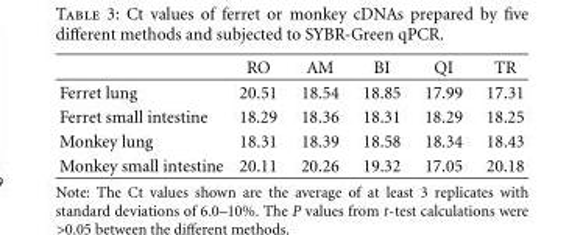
<table><thead><tr><td></td><td>RO</td><td>AM</td><td>BI</td><td>QI</td><td>TR</td></tr></thead><tbody><tr><td>Ferret lung</td><td>20.51</td><td>18.54</td><td>18.85</td><td>17.99</td><td>17.31</td></tr><tr><td>Ferret small intestine</td><td>18.29</td><td>18.36</td><td>18.31</td><td>18.29</td><td>18.25</td></tr><tr><td>Monkey lung</td><td>18.31</td><td>18.39</td><td>18.58</td><td>18.34</td><td>18.43</td></tr><tr><td>Monkey small intestine</td><td>20.11</td><td>20.26</td><td>19.32</td><td>17.05</td><td>20.18</td></tr></tbody></table>